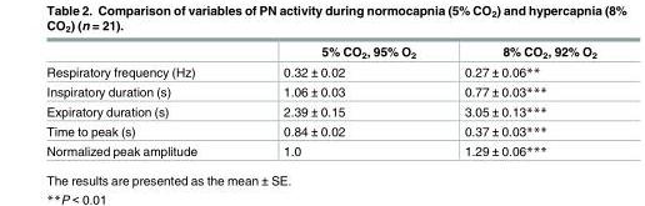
<table><thead><tr><td></td><td>5% CO<sub>2</sub>, 95% O<sub>2</sub></td><td>8% CO<sub>2</sub>, 92% O<sub>2</sub></td></tr></thead><tbody><tr><td>Respiratory frequency (Hz)</td><td>0.32 ± 0.02</td><td>0.27 ± 0.06**</td></tr><tr><td>Inspiratory duration (s)</td><td>1.06 ± 0.03</td><td>0.77 ± 0.03***</td></tr><tr><td>Expiratory duration (s)</td><td>2.39 ± 0.15</td><td>3.05 ± 0.13***</td></tr><tr><td>Time to peak (s)</td><td>0.84 ± 0.02</td><td>0.37 ± 0.03***</td></tr><tr><td>Normalized peak amplitude</td><td>1.0</td><td>1.29 ± 0.06***</td></tr></tbody></table>